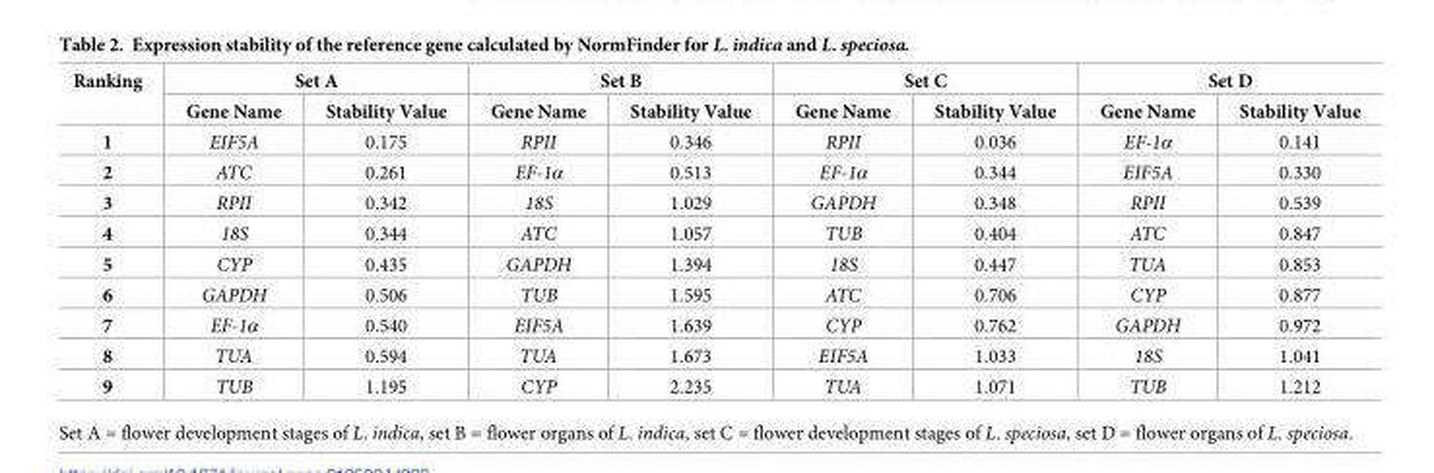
<table><thead><tr><td rowspan="2">Ranking</td><td colspan="2">Set A</td><td colspan="2">Set B</td><td colspan="2">Set C</td><td colspan="2">Set D</td></tr><tr><td>Gene Name</td><td>Stability Value</td><td>Gene Name</td><td>Stability Value</td><td>Gene Name</td><td>Stability Value</td><td>Gene Name</td><td>Stability Value</td></tr></thead><tbody><tr><td>1</td><td>EIF5A</td><td>0.175</td><td>RPII</td><td>0.346</td><td>RPII</td><td>0.036</td><td>EF-1α</td><td>0.141</td></tr><tr><td>2</td><td>ATC</td><td>0.261</td><td>EF-1α</td><td>0.513</td><td>EF-1α</td><td>0.344</td><td>EIF5A</td><td>0.330</td></tr><tr><td>3</td><td>RPII</td><td>0.342</td><td>18S</td><td>1.029</td><td>GAPDH</td><td>0.348</td><td>RPII</td><td>0.539</td></tr><tr><td>4</td><td>18S</td><td>0.344</td><td>ATC</td><td>1.057</td><td>TUB</td><td>0.404</td><td>ATC</td><td>0.847</td></tr><tr><td>5</td><td>CYP</td><td>0.435</td><td>GAPDH</td><td>1.394</td><td>18S</td><td>0.447</td><td>TUA</td><td>0.853</td></tr><tr><td>6</td><td>GAPDH</td><td>0.506</td><td>TUB</td><td>1.595</td><td>ATC</td><td>0.706</td><td>CYP</td><td>0.877</td></tr><tr><td>7</td><td>EF-1α</td><td>0.540</td><td>EIF5A</td><td>1.639</td><td>CYP</td><td>0.762</td><td>GAPDH</td><td>0.972</td></tr><tr><td>8</td><td>TUA</td><td>0.594</td><td>TUA</td><td>1.673</td><td>EIF5A</td><td>1.033</td><td>18S</td><td>1.041</td></tr><tr><td>9</td><td>TUB</td><td>1.195</td><td>CYP</td><td>2.235</td><td>TUA</td><td>1.071</td><td>TUB</td><td>1.212</td></tr></tbody></table>